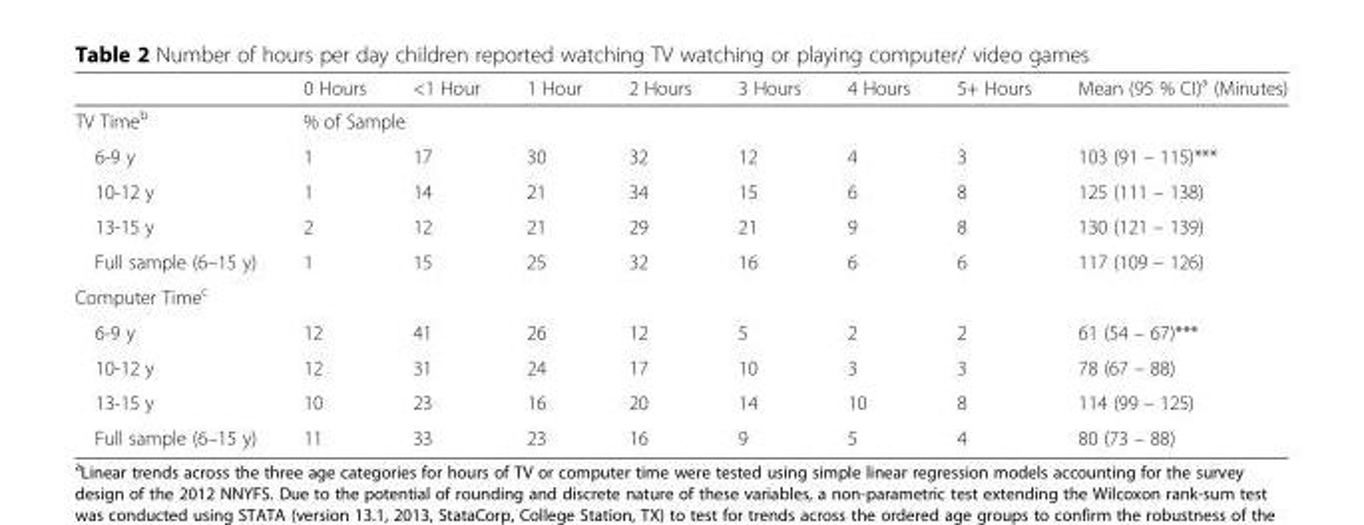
<table><thead><tr><td></td><td>0 Hours</td><td>&lt;1 Hour</td><td>1 Hour</td><td>2 Hours</td><td>3 Hours</td><td>4 Hours</td><td>5+ Hours</td><td>Mean (95 % CI)<sup>a</sup> (Minutes)</td></tr></thead><tbody><tr><td>TV Time<sup>b</sup></td><td colspan="7">% of Sample</td><td></td></tr><tr><td>6-9 y</td><td>1</td><td>17</td><td>30</td><td>32</td><td>12</td><td>4</td><td>3</td><td>103 (91 – 115)***</td></tr><tr><td>10-12 y</td><td>1</td><td>14</td><td>21</td><td>34</td><td>15</td><td>6</td><td>8</td><td>125 (111 – 138)</td></tr><tr><td>13-15 y</td><td>2</td><td>12</td><td>21</td><td>29</td><td>21</td><td>9</td><td>8</td><td>130 (121 – 139)</td></tr><tr><td>Full sample (6–15 y)</td><td>1</td><td>15</td><td>25</td><td>32</td><td>16</td><td>6</td><td>6</td><td>117 (109 – 126)</td></tr><tr><td colspan="9">Computer Time<sup>c</sup></td></tr><tr><td>6-9 y</td><td>12</td><td>41</td><td>26</td><td>12</td><td>5</td><td>2</td><td>2</td><td>61 (54 – 67)***</td></tr><tr><td>10-12 y</td><td>12</td><td>31</td><td>24</td><td>17</td><td>10</td><td>3</td><td>3</td><td>78 (67 – 88)</td></tr><tr><td>13-15 y</td><td>10</td><td>23</td><td>16</td><td>20</td><td>14</td><td>10</td><td>8</td><td>114 (99 – 125)</td></tr><tr><td>Full sample (6–15 y)</td><td>11</td><td>33</td><td>23</td><td>16</td><td>9</td><td>5</td><td>4</td><td>80 (73 – 88)</td></tr></tbody></table>